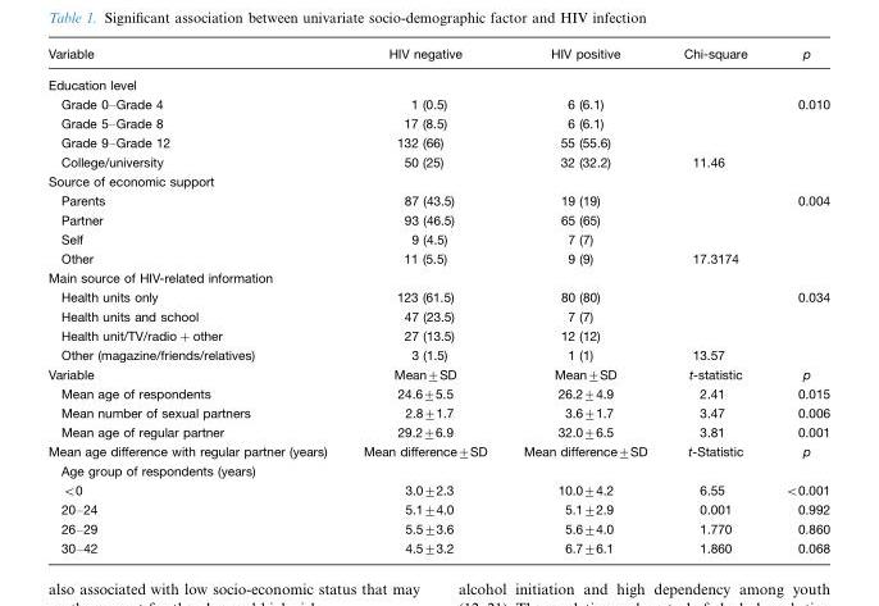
<table><thead><tr><td>Variable</td><td>HIV negative</td><td>HIV positive</td><td>Chi-square</td><td>p</td></tr></thead><tbody><tr><td colspan="5">Education level</td></tr><tr><td>Grade 0–Grade 4</td><td>1 (0.5)</td><td>6 (6.1)</td><td></td><td>0.010</td></tr><tr><td>Grade 5–Grade 8</td><td>17 (8.5)</td><td>6 (6.1)</td><td></td><td></td></tr><tr><td>Grade 9–Grade 12</td><td>132 (66)</td><td>55 (55.6)</td><td></td><td></td></tr><tr><td>College/university</td><td>50 (25)</td><td>32 (32.2)</td><td>11.46</td><td></td></tr><tr><td colspan="5">Source of economic support</td></tr><tr><td>Parents</td><td>87 (43.5)</td><td>19 (19)</td><td></td><td>0.004</td></tr><tr><td>Partner</td><td>93 (46.5)</td><td>65 (65)</td><td></td><td></td></tr><tr><td>Self</td><td>9 (4.5)</td><td>7 (7)</td><td></td><td></td></tr><tr><td>Other</td><td>11 (5.5)</td><td>9 (9)</td><td>17.3174</td><td></td></tr><tr><td colspan="5">Main source of HIV-related information</td></tr><tr><td>Health units only</td><td>123 (61.5)</td><td>80 (80)</td><td></td><td>0.034</td></tr><tr><td>Health units and school</td><td>47 (23.5)</td><td>7 (7)</td><td></td><td></td></tr><tr><td>Health unit/TV/radio+other</td><td>27 (13.5)</td><td>12 (12)</td><td></td><td></td></tr><tr><td>Other (magazine/friends/relatives)</td><td>3 (1.5)</td><td>1 (1)</td><td>13.57</td><td></td></tr><tr><td>Variable</td><td>Mean±SD</td><td>Mean±SD</td><td>t-statistic</td><td>p</td></tr><tr><td>Mean age of respondents</td><td>24.6±5.5</td><td>26.2±4.9</td><td>2.41</td><td>0.015</td></tr><tr><td>Mean number of sexual partners</td><td>2.8±1.7</td><td>3.6±1.7</td><td>3.47</td><td>0.006</td></tr><tr><td>Mean age of regular partner</td><td>29.2±6.9</td><td>32.0±6.5</td><td>3.81</td><td>0.001</td></tr><tr><td>Mean age difference with regular partner (years) Age group of respondents (years)</td><td>Mean difference±SD</td><td>Mean difference±SD</td><td>t-Statistic</td><td>p</td></tr><tr><td>&lt;0</td><td>3.0±2.3</td><td>10.0±4.2</td><td>6.55</td><td>&lt;0.001</td></tr><tr><td>20–24</td><td>5.1±4.0</td><td>5.1±2.9</td><td>0.001</td><td>0.992</td></tr><tr><td>26–29</td><td>5.5±3.6</td><td>5.6±4.0</td><td>1.770</td><td>0.860</td></tr><tr><td>30–42</td><td>4.5±3.2</td><td>6.7±6.1</td><td>1.860</td><td>0.068</td></tr></tbody></table>